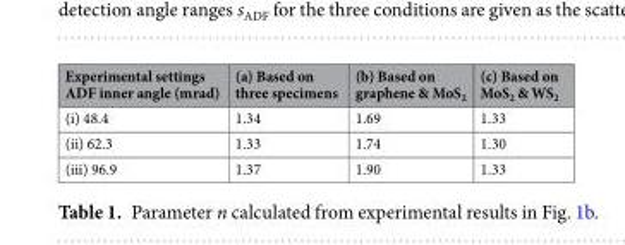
<table><thead><tr><td>Experimental settings ADF inner angle (mrad)</td><td>(a) Based on three specimens</td><td>(b) Based on graphene &amp; MoS<sub>2</sub></td><td>(c) Based on MoS<sub>2</sub> &amp; WS<sub>2</sub></td></tr></thead><tbody><tr><td>(i) 48.4</td><td>1.34</td><td>1.69</td><td>1.33</td></tr><tr><td>(ii) 62.3</td><td>1.33</td><td>1.74</td><td>1.30</td></tr><tr><td>(iii) 96.9</td><td>1.37</td><td>1.90</td><td>1.33</td></tr></tbody></table>